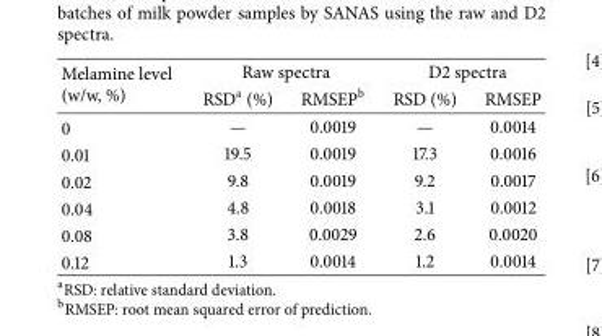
<table><thead><tr><td rowspan="2">Melamine level (w/w, %)</td><td colspan="2">Raw spectra</td><td colspan="2">D2 spectra</td></tr><tr><td>RSD<sup>a</sup> (%)</td><td>RMSEP<sup>b</sup></td><td>RSD (%)</td><td>RMSEP</td></tr></thead><tbody><tr><td>0</td><td>—</td><td>0.0019</td><td>—</td><td>0.0014</td></tr><tr><td>0.01</td><td>19.5</td><td>0.0019</td><td>17.3</td><td>0.0016</td></tr><tr><td>0.02</td><td>9.8</td><td>0.0019</td><td>9.2</td><td>0.0017</td></tr><tr><td>0.04</td><td>4.8</td><td>0.0018</td><td>3.1</td><td>0.0012</td></tr><tr><td>0.08</td><td>3.8</td><td>0.0029</td><td>2.6</td><td>0.0020</td></tr><tr><td>0.12</td><td>1.3</td><td>0.0014</td><td>1.2</td><td>0.0014</td></tr></tbody></table>